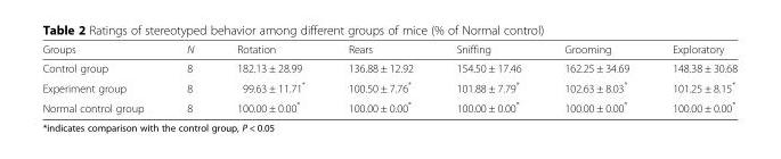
<table><thead><tr><td>Groups</td><td>N</td><td>Rotation</td><td>Rears</td><td>Sniffing</td><td>Grooming</td><td>Exploratory</td></tr></thead><tbody><tr><td>Control group</td><td>8</td><td>182.13 ± 28.99</td><td>136.88 ± 12.92</td><td>154.50 ± 17.46</td><td>162.25 ± 34.69</td><td>148.38 ± 30.68</td></tr><tr><td>Experiment group</td><td>8</td><td>99.63 ± 11.71*</td><td>100.50 ± 7.76*</td><td>101.88 ± 7.79*</td><td>102.63 ± 8.03*</td><td>101.25 ± 8.15*</td></tr><tr><td>Normal control group</td><td>8</td><td>100.00 ± 0.00*</td><td>100.00 ± 0.00*</td><td>100.00 ± 0.00*</td><td>100.00 ± 0.00*</td><td>100.00 ± 0.00*</td></tr></tbody></table>